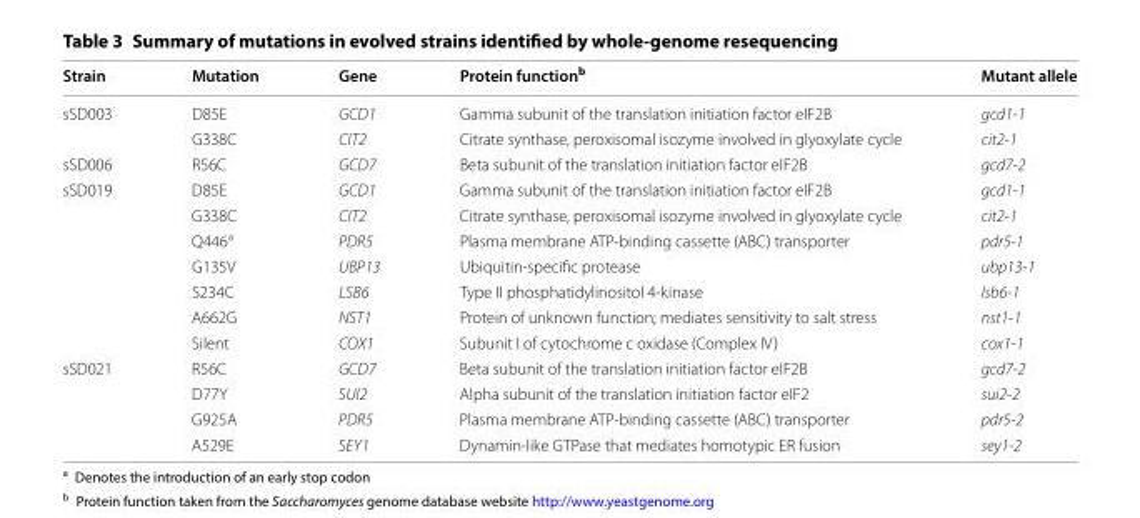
<table><thead><tr><td>Strain</td><td>Mutation</td><td>Gene</td><td>Protein function<sup>b</sup></td><td>Mutant allele</td></tr></thead><tbody><tr><td rowspan="2">sSD003</td><td>D85E</td><td>GCD1</td><td>Gamma subunit of the translation initiation factor eIF2B</td><td>gcd1‑1</td></tr><tr><td>G338C</td><td>CIT2</td><td>Citrate synthase, peroxisomal isozyme involved in glyoxylate cycle</td><td>cit2‑1</td></tr><tr><td>sSD006</td><td>R56C</td><td>GCD7</td><td>Beta subunit of the translation initiation factor eIF2B</td><td>gcd7‑2</td></tr><tr><td rowspan="7">sSD019</td><td>D85E</td><td>GCD1</td><td>Gamma subunit of the translation initiation factor eIF2B</td><td>gcd1‑1</td></tr><tr><td>G338C</td><td>CIT2</td><td>Citrate synthase, peroxisomal isozyme involved in glyoxylate cycle</td><td>cit2‑1</td></tr><tr><td>Q446<sup>a</sup></td><td>PDR5</td><td>Plasma membrane ATP‑binding cassette (ABC) transporter</td><td>pdr5‑1</td></tr><tr><td>G135V</td><td>UBP13</td><td>Ubiquitin‑specific protease</td><td>ubp13‑1</td></tr><tr><td>S234C</td><td>LSB6</td><td>Type II phosphatidylinositol 4‑kinase</td><td>lsb6‑1</td></tr><tr><td>A662G</td><td>NST1</td><td>Protein of unknown function; mediates sensitivity to salt stress</td><td>nst1‑1</td></tr><tr><td>Silent</td><td>COX1</td><td>Subunit I of cytochrome c oxidase (Complex IV)</td><td>cox1‑1</td></tr><tr><td rowspan="4">sSD021</td><td>R56C</td><td>GCD7</td><td>Beta subunit of the translation initiation factor eIF2B</td><td>gcd7‑2</td></tr><tr><td>D77Y</td><td>SUI2</td><td>Alpha subunit of the translation initiation factor eIF2</td><td>sui2‑2</td></tr><tr><td>G925A</td><td>PDR5</td><td>Plasma membrane ATP‑binding cassette (ABC) transporter</td><td>pdr5‑2</td></tr><tr><td>A529E</td><td>SEY1</td><td>Dynamin‑like GTPase that mediates homotypic ER fusion</td><td>sey1‑2</td></tr></tbody></table>